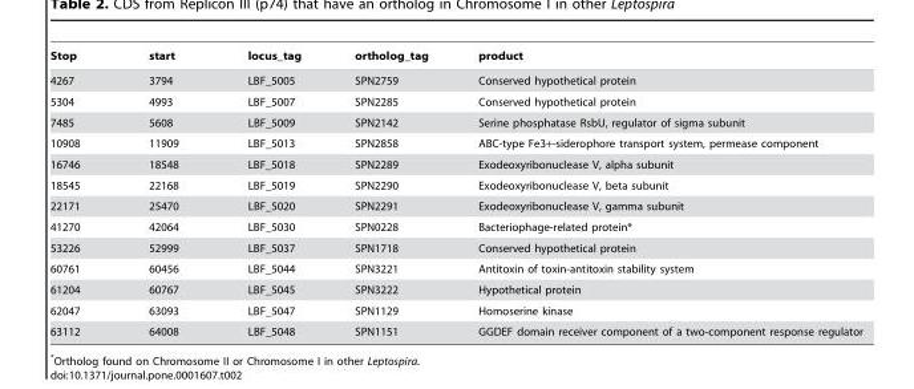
<table><thead><tr><td>Stop</td><td>start</td><td>locus_tag</td><td>ortholog_tag</td><td>product</td></tr></thead><tbody><tr><td>4267</td><td>3794</td><td>LBF_5005</td><td>SPN2759</td><td>Conserved hypothetical protein</td></tr><tr><td>5304</td><td>4993</td><td>LBF_5007</td><td>SPN2285</td><td>Conserved hypothetical protein</td></tr><tr><td>7485</td><td>5608</td><td>LBF_5009</td><td>SPN2142</td><td>Serine phosphatase RsbU, regulator of sigma subunit</td></tr><tr><td>10908</td><td>11909</td><td>LBF_5013</td><td>SPN2858</td><td>ABC-type Fe3+-siderophore transport system, permease component</td></tr><tr><td>16746</td><td>18548</td><td>LBF_5018</td><td>SPN2289</td><td>Exodeoxyribonuclease V, alpha subunit</td></tr><tr><td>18545</td><td>22168</td><td>LBF_5019</td><td>SPN2290</td><td>Exodeoxyribonuclease V, beta subunit</td></tr><tr><td>22171</td><td>25470</td><td>LBF_5020</td><td>SPN2291</td><td>Exodeoxyribonuclease V, gamma subunit</td></tr><tr><td>41270</td><td>42064</td><td>LBF_5030</td><td>SPN0228</td><td>Bacteriophage-related protein*</td></tr><tr><td>53226</td><td>52999</td><td>LBF_5037</td><td>SPN1718</td><td>Conserved hypothetical protein</td></tr><tr><td>60761</td><td>60456</td><td>LBF_5044</td><td>SPN3221</td><td>Antitoxin of toxin-antitoxin stability system</td></tr><tr><td>61204</td><td>60767</td><td>LBF_5045</td><td>SPN3222</td><td>Hypothetical protein</td></tr><tr><td>62047</td><td>63093</td><td>LBF_5047</td><td>SPN1129</td><td>Homoserine kinase</td></tr><tr><td>63112</td><td>64008</td><td>LBF_5048</td><td>SPN1151</td><td>GGDEF domain receiver component of a two-component response regulator</td></tr></tbody></table>